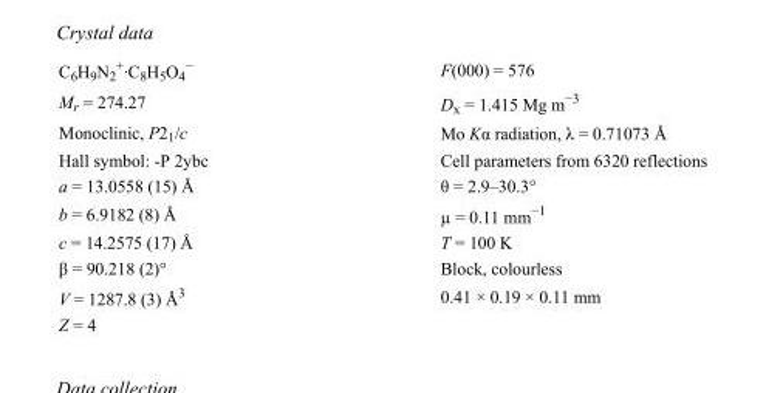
<table><tbody><tr><td>C<sub>6</sub>H<sub>9</sub>N<sub>2</sub> <sup>+</sup>·C<sub>8</sub>H<sub>5</sub>O<sub>4</sub> <sup>−</sup></td><td>F(000) = 576</td></tr><tr><td>M<sub>r</sub> = 274.27</td><td>D<sub>x</sub> = 1.415 Mg m<sup>−3</sup></td></tr><tr><td>Monoclinic, P2<sub>1</sub>/c</td><td>Mo Kα radiation, λ = 0.71073 Å</td></tr><tr><td>Hall symbol: -P 2ybc</td><td>Cell parameters from 6320 reflections</td></tr><tr><td>a = 13.0558 (15) Å</td><td>θ = 2.9–30.3°</td></tr><tr><td>b = 6.9182 (8) Å</td><td>µ = 0.11 mm<sup>−1</sup></td></tr><tr><td>c = 14.2575 (17) Å</td><td>T = 100 K</td></tr><tr><td>β = 90.218 (2)°</td><td>Block, colourless</td></tr><tr><td>V = 1287.8 (3) Å<sup>3</sup></td><td>0.41 × 0.19 × 0.11 mm</td></tr><tr><td>Z = 4</td><td></td></tr></tbody></table>